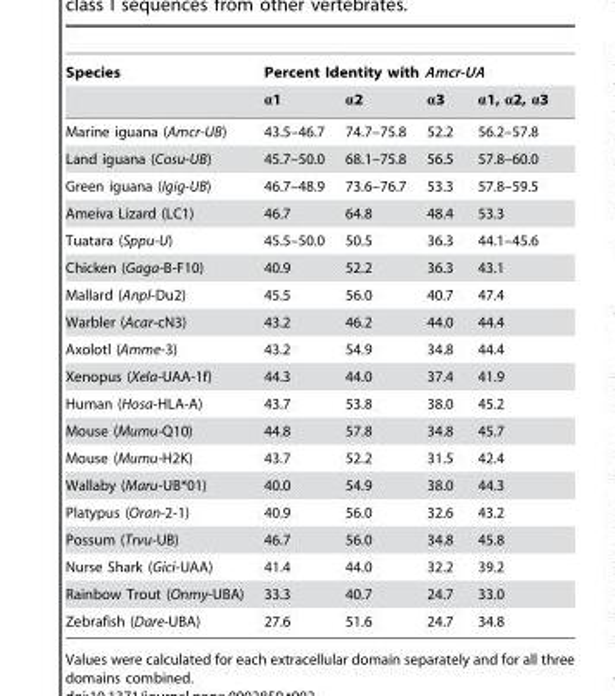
<table><thead><tr><td rowspan="2">Species</td><td colspan="4">Percent Identity with Amcr-UA</td></tr><tr><td>α1</td><td>α2</td><td>α3</td><td>α1, α2, α3</td></tr></thead><tbody><tr><td>Marine iguana (Amcr-UB)</td><td>43.5–46.7</td><td>74.7–75.8</td><td>52.2</td><td>56.2–57.8</td></tr><tr><td>Land iguana (Cosu-UB)</td><td>45.7–50.0</td><td>68.1–75.8</td><td>56.5</td><td>57.8–60.0</td></tr><tr><td>Green iguana (Igig-UB)</td><td>46.7–48.9</td><td>73.6–76.7</td><td>53.3</td><td>57.8–59.5</td></tr><tr><td>Ameiva Lizard (LC1)</td><td>46.7</td><td>64.8</td><td>48.4</td><td>53.3</td></tr><tr><td>Tuatara (Sppu-U)</td><td>45.5–50.0</td><td>50.5</td><td>36.3</td><td>44.1–45.6</td></tr><tr><td>Chicken (Gaga-B-F10)</td><td>40.9</td><td>52.2</td><td>36.3</td><td>43.1</td></tr><tr><td>Mallard (Anpl-Du2)</td><td>45.5</td><td>56.0</td><td>40.7</td><td>47.4</td></tr><tr><td>Warbler (Acar-cN3)</td><td>43.2</td><td>46.2</td><td>44.0</td><td>44.4</td></tr><tr><td>Axolotl (Amme-3)</td><td>43.2</td><td>54.9</td><td>34.8</td><td>44.4</td></tr><tr><td>Xenopus (Xela-UAA-1f)</td><td>44.3</td><td>44.0</td><td>37.4</td><td>41.9</td></tr><tr><td>Human (Hosa-HLA-A)</td><td>43.7</td><td>53.8</td><td>38.0</td><td>45.2</td></tr><tr><td>Mouse (Mumu-Q10)</td><td>44.8</td><td>57.8</td><td>34.8</td><td>45.7</td></tr><tr><td>Mouse (Mumu-H2K)</td><td>43.7</td><td>52.2</td><td>31.5</td><td>42.4</td></tr><tr><td>Wallaby (Maru-UB*01)</td><td>40.0</td><td>54.9</td><td>38.0</td><td>44.3</td></tr><tr><td>Platypus (Oran-2-1)</td><td>40.9</td><td>56.0</td><td>32.6</td><td>43.2</td></tr><tr><td>Possum (Trvu-UB)</td><td>46.7</td><td>56.0</td><td>34.8</td><td>45.8</td></tr><tr><td>Nurse Shark (Gici-UAA)</td><td>41.4</td><td>44.0</td><td>32.2</td><td>39.2</td></tr><tr><td>Rainbow Trout (Onmy-UBA)</td><td>33.3</td><td>40.7</td><td>24.7</td><td>33.0</td></tr><tr><td>Zebrafish (Dare-UBA)</td><td>27.6</td><td>51.6</td><td>24.7</td><td>34.8</td></tr></tbody></table>